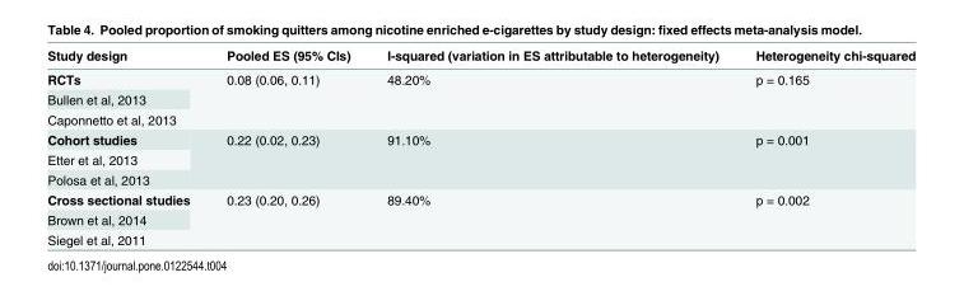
<table><thead><tr><td>Study design</td><td>Pooled ES (95% CIs)</td><td>I-squared (variation in ES attributable to heterogeneity)</td><td>Heterogeneity chi-squared</td></tr></thead><tbody><tr><td>RCTs</td><td rowspan="3">0.08 (0.06, 0.11)</td><td rowspan="3">48.20%</td><td rowspan="3">p = 0.165</td></tr><tr><td>Bullen et al, 2013</td></tr><tr><td>Caponnetto et al, 2013</td></tr><tr><td>Cohort studies</td><td rowspan="3">0.22 (0.02, 0.23)</td><td rowspan="3">91.10%</td><td rowspan="3">p = 0.001</td></tr><tr><td>Etter et al, 2013</td></tr><tr><td>Polosa et al, 2013</td></tr><tr><td>Cross sectional studies</td><td rowspan="3">0.23 (0.20, 0.26)</td><td rowspan="3">89.40%</td><td rowspan="3">p = 0.002</td></tr><tr><td>Brown et al, 2014</td></tr><tr><td>Siegel et al, 2011</td></tr></tbody></table>